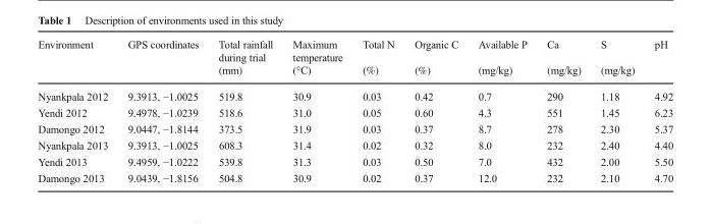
<table><thead><tr><td rowspan="2">Environment</td><td rowspan="2">GPS coordinates</td><td rowspan="2">Total rainfall during trial (mm)</td><td rowspan="2">Maximum temperature (°C)</td><td rowspan="2">Total N (%)</td><td rowspan="2">Organic C (%)</td><td rowspan="2">Available P (mg/kg)</td><td rowspan="2">Ca (mg/kg)</td><td rowspan="2">S (mg/kg)</td><td rowspan="2">pH</td></tr><tr></tr></thead><tbody><tr><td>Nyankpala 2012</td><td>9.3913, −1.0025</td><td>519.8</td><td>30.9</td><td>0.03</td><td>0.42</td><td>0.7</td><td>290</td><td>1.18</td><td>4.92</td></tr><tr><td>Yendi 2012</td><td>9.4978, −1.0239</td><td>518.6</td><td>31.0</td><td>0.05</td><td>0.60</td><td>4.3</td><td>551</td><td>1.45</td><td>6.23</td></tr><tr><td>Damongo 2012</td><td>9.0447, −1.8144</td><td>373.5</td><td>31.9</td><td>0.03</td><td>0.37</td><td>8.7</td><td>278</td><td>2.30</td><td>5.37</td></tr><tr><td>Nyankpala 2013</td><td>9.3913, −1.0025</td><td>608.3</td><td>31.4</td><td>0.02</td><td>0.32</td><td>8.0</td><td>232</td><td>2.40</td><td>4.40</td></tr><tr><td>Yendi 2013</td><td>9.4959, −1.0222</td><td>539.8</td><td>31.3</td><td>0.03</td><td>0.50</td><td>7.0</td><td>432</td><td>2.00</td><td>5.50</td></tr><tr><td>Damongo 2013</td><td>9.0439, −1.8156</td><td>504.8</td><td>30.9</td><td>0.02</td><td>0.37</td><td>12.0</td><td>232</td><td>2.10</td><td>4.70</td></tr></tbody></table>